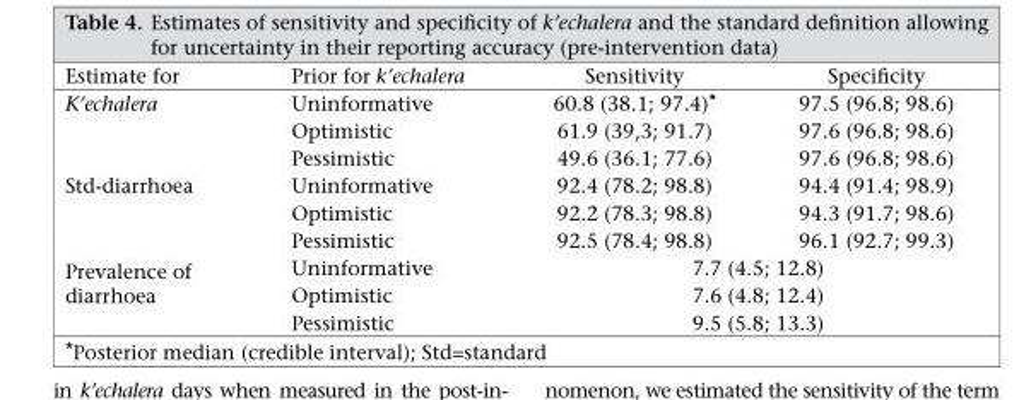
<table><thead><tr><td>Estimate for</td><td>Prior for k’echalera</td><td>Sensitivity</td><td>Specificity</td></tr></thead><tbody><tr><td rowspan="3">K’echalera</td><td>Uninformative</td><td>60.8 (38.1; 97.4)*</td><td>97.5 (96.8; 98.6)</td></tr><tr><td>Optimistic</td><td>61.9 (39,3; 91.7)</td><td>97.6 (96.8; 98.6)</td></tr><tr><td>Pessimistic</td><td>49.6 (36.1; 77.6)</td><td>97.6 (96.8; 98.6)</td></tr><tr><td rowspan="3">Std-diarrhoea</td><td>Uninformative</td><td>92.4 (78.2; 98.8)</td><td>94.4 (91.4; 98.9)</td></tr><tr><td>Optimistic</td><td>92.2 (78.3; 98.8)</td><td>94.3 (91.7; 98.6)</td></tr><tr><td>Pessimistic</td><td>92.5 (78.4; 98.8)</td><td>96.1 (92.7; 99.3)</td></tr><tr><td rowspan="3">Prevalence of diarrhoea</td><td>Uninformative</td><td colspan="2">7.7 (4.5; 12.8)</td></tr><tr><td>Optimistic</td><td colspan="2">7.6 (4.8; 12.4)</td></tr><tr><td>Pessimistic</td><td colspan="2">9.5 (5.8; 13.3)</td></tr></tbody></table>